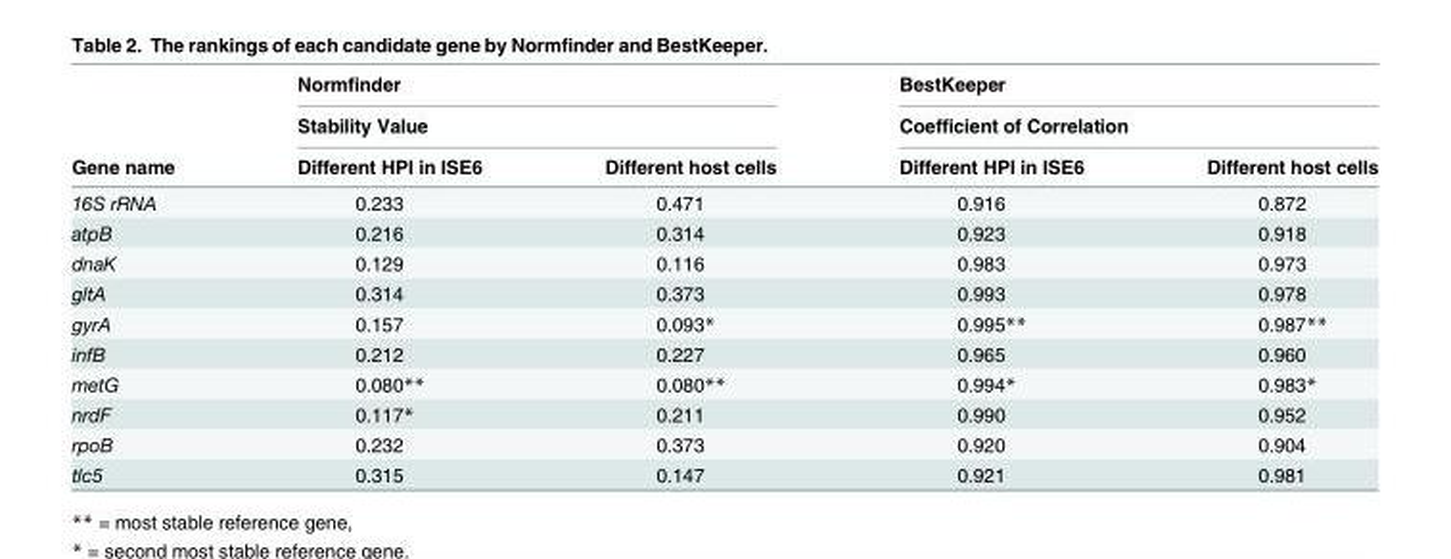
<table><thead><tr><td rowspan="3">Gene name</td><td rowspan="2" colspan="2">Normfinder Stability Value</td><td rowspan="2" colspan="2">BestKeeper Coefficient of Correlation</td></tr><tr></tr><tr><td>Different HPI in ISE6</td><td>Different host cells</td><td>Different HPI in ISE6</td><td>Different host cells</td></tr></thead><tbody><tr><td>16S rRNA</td><td>0.233</td><td>0.471</td><td>0.916</td><td>0.872</td></tr><tr><td>atpB</td><td>0.216</td><td>0.314</td><td>0.923</td><td>0.918</td></tr><tr><td>dnaK</td><td>0.129</td><td>0.116</td><td>0.983</td><td>0.973</td></tr><tr><td>gltA</td><td>0.314</td><td>0.373</td><td>0.993</td><td>0.978</td></tr><tr><td>gyrA</td><td>0.157</td><td>0.093*</td><td>0.995**</td><td>0.987**</td></tr><tr><td>infB</td><td>0.212</td><td>0.227</td><td>0.965</td><td>0.960</td></tr><tr><td>metG</td><td>0.080**</td><td>0.080**</td><td>0.994*</td><td>0.983*</td></tr><tr><td>nrdF</td><td>0.117*</td><td>0.211</td><td>0.990</td><td>0.952</td></tr><tr><td>rpoB</td><td>0.232</td><td>0.373</td><td>0.920</td><td>0.904</td></tr><tr><td>tlc5</td><td>0.315</td><td>0.147</td><td>0.921</td><td>0.981</td></tr></tbody></table>